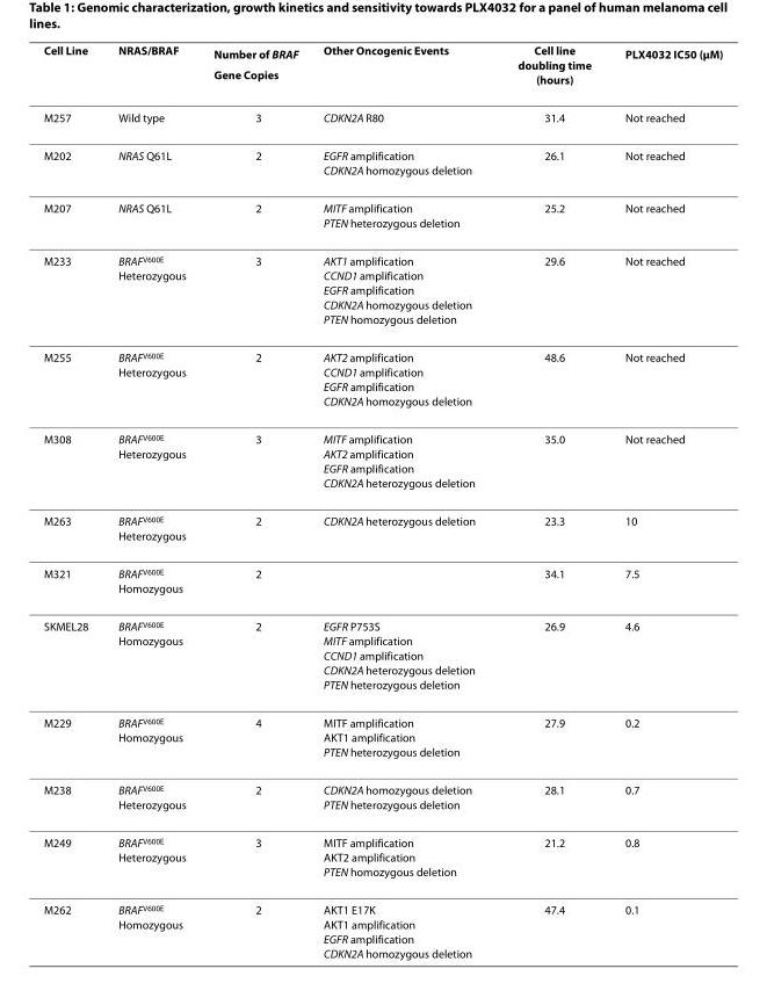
<table><thead><tr><td>Cell Line</td><td>NRAS/BRAF</td><td>Number of BRAF Gene Copies</td><td>Other Oncogenic Events</td><td>Cell line doubling time (hours)</td><td>PLX4032 IC<sub>50</sub> (μM)</td></tr></thead><tbody><tr><td>M257</td><td>Wild type</td><td>3</td><td>CDKN2A R80</td><td>31.4</td><td>Not reached</td></tr><tr><td>M202</td><td>NRAS Q61L</td><td>2</td><td>EGFR amplification CDKN2A homozygous deletion</td><td>26.1</td><td>Not reached</td></tr><tr><td>M207</td><td>NRAS Q61L</td><td>2</td><td>MITF amplification PTEN heterozygous deletion</td><td>25.2</td><td>Not reached</td></tr><tr><td>M233</td><td>BRAF<sup>V600E</sup> Heterozygous</td><td>3</td><td>AKT1 amplification CCND1 amplification EGFR amplification CDKN2A homozygous deletion PTEN homozygous deletion</td><td>29.6</td><td>Not reached</td></tr><tr><td>M255</td><td>BRAF<sup>V600E</sup> Heterozygous</td><td>2</td><td>AKT2 amplification CCND1 amplification EGFR amplification CDKN2A homozygous deletion</td><td>48.6</td><td>Not reached</td></tr><tr><td>M308</td><td>BRAF<sup>V600E</sup> Heterozygous</td><td>3</td><td>MITF amplification AKT2 amplification EGFR amplification CDKN2A heterozygous deletion</td><td>35.0</td><td>Not reached</td></tr><tr><td>M263</td><td>BRAF<sup>V600E</sup> Heterozygous</td><td>2</td><td>CDKN2A heterozygous deletion</td><td>23.3</td><td>10</td></tr><tr><td>M321</td><td>BRAF<sup>V600E</sup> Homozygous</td><td>2</td><td></td><td>34.1</td><td>7.5</td></tr><tr><td>SKMEL28</td><td>BRAF<sup>V600E</sup> Homozygous</td><td>2</td><td>EGFR P753S MITF amplification CCND1 amplification CDKN2A heterozygous deletion PTEN heterozygous deletion</td><td>26.9</td><td>4.6</td></tr><tr><td>M229</td><td>BRAF<sup>V600E</sup> Homozygous</td><td>4</td><td>MITF amplification AKT1 amplification PTEN heterozygous deletion</td><td>27.9</td><td>0.2</td></tr><tr><td>M238</td><td>BRAF<sup>V600E</sup> Heterozygous</td><td>2</td><td>CDKN2A homozygous deletion PTEN heterozygous deletion</td><td>28.1</td><td>0.7</td></tr><tr><td>M249</td><td>BRAF<sup>V600E</sup> Heterozygous</td><td>3</td><td>MITF amplification AKT2 amplification PTEN homozygous deletion</td><td>21.2</td><td>0.8</td></tr><tr><td>M262</td><td>BRAF<sup>V600E</sup> Homozygous</td><td>2</td><td>AKT1 E17K AKT1 amplification EGFR amplification CDKN2A homozygous deletion</td><td>47.4</td><td>0.1</td></tr></tbody></table>